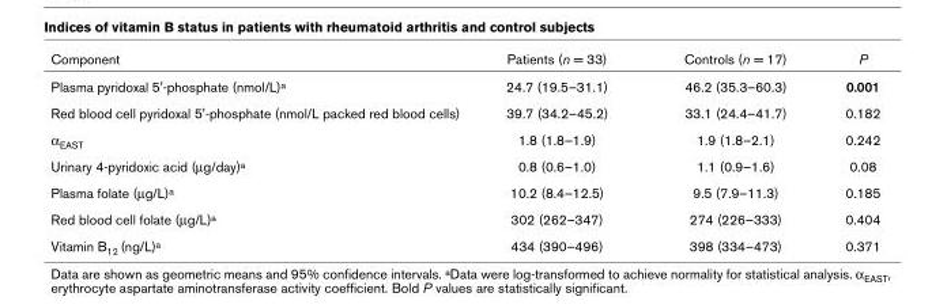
<table><thead><tr><td>Component</td><td>Patients (n = 33)</td><td>Controls (n = 17)</td><td>P</td></tr></thead><tbody><tr><td>Plasma pyridoxal 5&#x27;-phosphate (nmol/L)a</td><td>24.7 (19.5–31.1)</td><td>46.2 (35.3–60.3)</td><td>0.001</td></tr><tr><td>Red blood cell pyridoxal 5&#x27;-phosphate (nmol/L packed red blood cells)</td><td>39.7 (34.2–45.2)</td><td>33.1 (24.4–41.7)</td><td>0.182</td></tr><tr><td>αEAST</td><td>1.8 (1.8–1.9)</td><td>1.9 (1.8–2.1)</td><td>0.242</td></tr><tr><td>Urinary 4-pyridoxic acid (µg/day)a</td><td>0.8 (0.6–1.0)</td><td>1.1 (0.9–1.6)</td><td>0.08</td></tr><tr><td>Plasma folate (µg/L)a</td><td>10.2 (8.4–12.5)</td><td>9.5 (7.9–11.3)</td><td>0.185</td></tr><tr><td>Red blood cell folate (µg/L)a</td><td>302 (262–347)</td><td>274 (226–333)</td><td>0.404</td></tr><tr><td>Vitamin B12 (ng/L)a</td><td>434 (390–496)</td><td>398 (334–473)</td><td>0.371</td></tr></tbody></table>